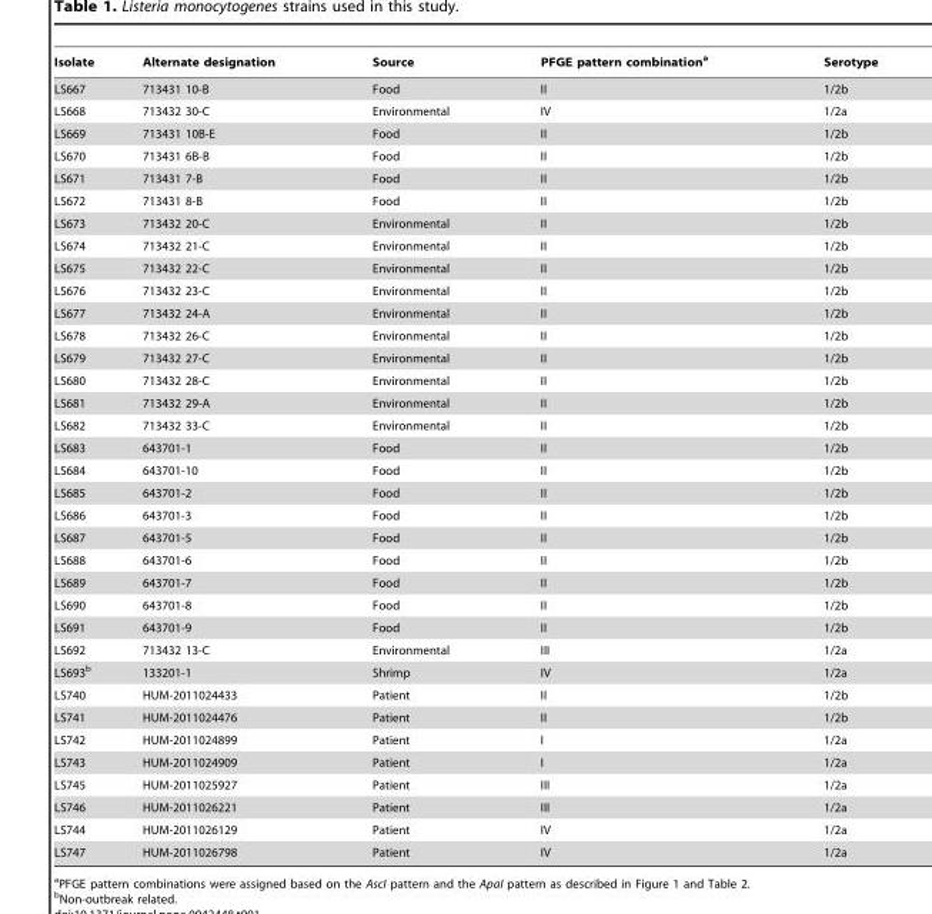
<table><thead><tr><td>Isolate</td><td>Alternate designation</td><td>Source</td><td>PFGE pattern combination<sup>a</sup></td><td>Serotype</td></tr></thead><tbody><tr><td>LS667</td><td>713431 10-B</td><td>Food</td><td>II</td><td>1/2b</td></tr><tr><td>LS668</td><td>713432 30-C</td><td>Environmental</td><td>IV</td><td>1/2a</td></tr><tr><td>LS669</td><td>713431 10B-E</td><td>Food</td><td>II</td><td>1/2b</td></tr><tr><td>LS670</td><td>713431 6B-B</td><td>Food</td><td>II</td><td>1/2b</td></tr><tr><td>LS671</td><td>713431 7-B</td><td>Food</td><td>II</td><td>1/2b</td></tr><tr><td>LS672</td><td>713431 8-B</td><td>Food</td><td>II</td><td>1/2b</td></tr><tr><td>LS673</td><td>713432 20-C</td><td>Environmental</td><td>II</td><td>1/2b</td></tr><tr><td>LS674</td><td>713432 21-C</td><td>Environmental</td><td>II</td><td>1/2b</td></tr><tr><td>LS675</td><td>713432 22-C</td><td>Environmental</td><td>II</td><td>1/2b</td></tr><tr><td>LS676</td><td>713432 23-C</td><td>Environmental</td><td>II</td><td>1/2b</td></tr><tr><td>LS677</td><td>713432 24-A</td><td>Environmental</td><td>II</td><td>1/2b</td></tr><tr><td>LS678</td><td>713432 26-C</td><td>Environmental</td><td>II</td><td>1/2b</td></tr><tr><td>LS679</td><td>713432 27-C</td><td>Environmental</td><td>II</td><td>1/2b</td></tr><tr><td>LS680</td><td>713432 28-C</td><td>Environmental</td><td>II</td><td>1/2b</td></tr><tr><td>LS681</td><td>713432 29-A</td><td>Environmental</td><td>II</td><td>1/2b</td></tr><tr><td>LS682</td><td>713432 33-C</td><td>Environmental</td><td>II</td><td>1/2b</td></tr><tr><td>LS683</td><td>643701-1</td><td>Food</td><td>II</td><td>1/2b</td></tr><tr><td>LS684</td><td>643701-10</td><td>Food</td><td>II</td><td>1/2b</td></tr><tr><td>LS685</td><td>643701-2</td><td>Food</td><td>II</td><td>1/2b</td></tr><tr><td>LS686</td><td>643701-3</td><td>Food</td><td>II</td><td>1/2b</td></tr><tr><td>LS687</td><td>643701-5</td><td>Food</td><td>II</td><td>1/2b</td></tr><tr><td>LS688</td><td>643701-6</td><td>Food</td><td>II</td><td>1/2b</td></tr><tr><td>LS689</td><td>643701-7</td><td>Food</td><td>II</td><td>1/2b</td></tr><tr><td>LS690</td><td>643701-8</td><td>Food</td><td>II</td><td>1/2b</td></tr><tr><td>LS691</td><td>643701-9</td><td>Food</td><td>II</td><td>1/2b</td></tr><tr><td>LS692</td><td>713432 13-C</td><td>Environmental</td><td>III</td><td>1/2a</td></tr><tr><td>LS693<sup>b</sup></td><td>133201-1</td><td>Shrimp</td><td>IV</td><td>1/2a</td></tr><tr><td>LS740</td><td>HUM-2011024433</td><td>Patient</td><td>II</td><td>1/2b</td></tr><tr><td>LS741</td><td>HUM-2011024476</td><td>Patient</td><td>II</td><td>1/2b</td></tr><tr><td>LS742</td><td>HUM-2011024899</td><td>Patient</td><td>I</td><td>1/2a</td></tr><tr><td>LS743</td><td>HUM-2011024909</td><td>Patient</td><td>I</td><td>1/2a</td></tr><tr><td>LS745</td><td>HUM-2011025927</td><td>Patient</td><td>III</td><td>1/2a</td></tr><tr><td>LS746</td><td>HUM-2011026221</td><td>Patient</td><td>III</td><td>1/2a</td></tr><tr><td>LS744</td><td>HUM-2011026129</td><td>Patient</td><td>IV</td><td>1/2a</td></tr><tr><td>LS747</td><td>HUM-2011026798</td><td>Patient</td><td>IV</td><td>1/2a</td></tr></tbody></table>